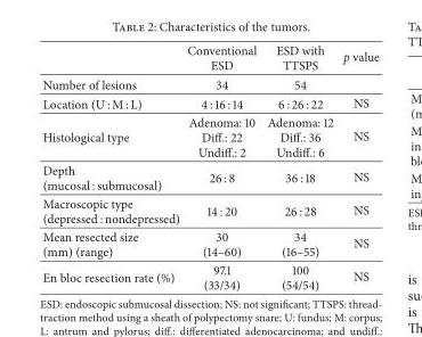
<table><thead><tr><td></td><td>Conventional ESD</td><td>ESD with TTSPS</td><td>p value</td></tr></thead><tbody><tr><td>Number of lesions</td><td>34</td><td>54</td><td></td></tr><tr><td>Location (U : M : L)</td><td>4 : 16 : 14</td><td>6 : 26 : 22</td><td>NS</td></tr><tr><td>Histological type</td><td>Adenoma: 10 Diff.: 22 Undiff.: 2</td><td>Adenoma: 12 Diff.: 36 Undiff.: 6</td><td>NS</td></tr><tr><td>Depth (mucosal : submucosal)</td><td>26 : 8</td><td>36 : 18</td><td>NS</td></tr><tr><td>Macroscopic type (depressed : nondepressed)</td><td>14 : 20</td><td>26 : 28</td><td>NS</td></tr><tr><td>Mean resected size (mm) (range)</td><td>30 (14–60)</td><td>34 (16–55)</td><td>NS</td></tr><tr><td>En bloc resection rate (%)</td><td>97.1 (33/34)</td><td>100 (54/54)</td><td>NS</td></tr></tbody></table>